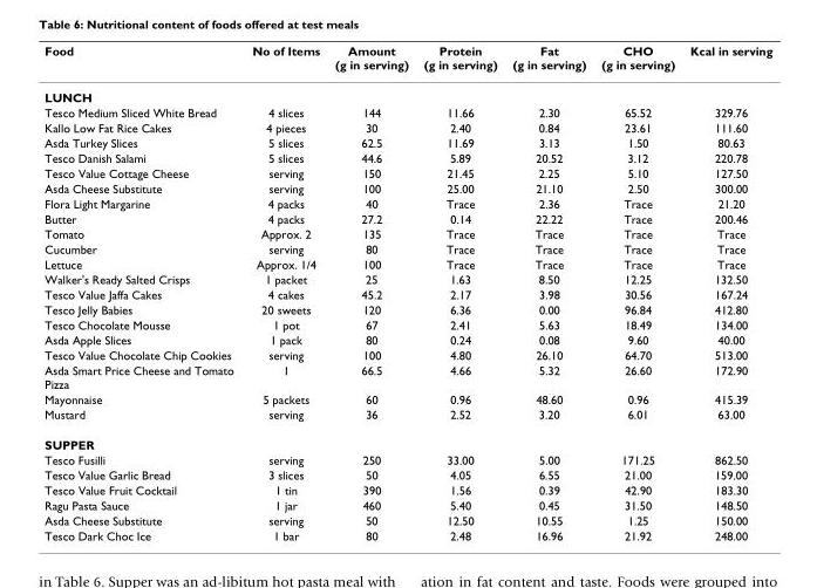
<table><thead><tr><td>Food</td><td>No of Items</td><td>Amount (g in serving)</td><td>Protein (g in serving)</td><td>Fat (g in serving)</td><td>CHO (g in serving)</td><td>Kcal in serving</td></tr></thead><tbody><tr><td colspan="7">LUNCH</td></tr><tr><td>Tesco Medium Sliced White Bread</td><td>4 slices</td><td>144</td><td>11.66</td><td>2.30</td><td>65.52</td><td>329.76</td></tr><tr><td>Kallo Low Fat Rice Cakes</td><td>4 pieces</td><td>30</td><td>2.40</td><td>0.84</td><td>23.61</td><td>111.60</td></tr><tr><td>Asda Turkey Slices</td><td>5 slices</td><td>62.5</td><td>11.69</td><td>3.13</td><td>1.50</td><td>80.63</td></tr><tr><td>Tesco Danish Salami</td><td>5 slices</td><td>44.6</td><td>5.89</td><td>20.52</td><td>3.12</td><td>220.78</td></tr><tr><td>Tesco Value Cottage Cheese</td><td>serving</td><td>150</td><td>21.45</td><td>2.25</td><td>5.10</td><td>127.50</td></tr><tr><td>Asda Cheese Substitute</td><td>serving</td><td>100</td><td>25.00</td><td>21.10</td><td>2.50</td><td>300.00</td></tr><tr><td>Flora Light Margarine</td><td>4 packs</td><td>40</td><td>Trace</td><td>2.36</td><td>Trace</td><td>21.20</td></tr><tr><td>Butter</td><td>4 packs</td><td>27.2</td><td>0.14</td><td>22.22</td><td>Trace</td><td>200.46</td></tr><tr><td>Tomato</td><td>Approx. 2</td><td>135</td><td>Trace</td><td>Trace</td><td>Trace</td><td>Trace</td></tr><tr><td>Cucumber</td><td>serving</td><td>80</td><td>Trace</td><td>Trace</td><td>Trace</td><td>Trace</td></tr><tr><td>Lettuce</td><td>Approx. 1/4</td><td>100</td><td>Trace</td><td>Trace</td><td>Trace</td><td>Trace</td></tr><tr><td>Walker&#x27;s Ready Salted Crisps</td><td>1 packet</td><td>25</td><td>1.63</td><td>8.50</td><td>12.25</td><td>132.50</td></tr><tr><td>Tesco Value Jaffa Cakes</td><td>4 cakes</td><td>45.2</td><td>2.17</td><td>3.98</td><td>30.56</td><td>167.24</td></tr><tr><td>Tesco Jelly Babies</td><td>20 sweets</td><td>120</td><td>6.36</td><td>0.00</td><td>96.84</td><td>412.80</td></tr><tr><td>Tesco Chocolate Mousse</td><td>1 pot</td><td>67</td><td>2.41</td><td>5.63</td><td>18.49</td><td>134.00</td></tr><tr><td>Asda Apple Slices</td><td>1 pack</td><td>80</td><td>0.24</td><td>0.08</td><td>9.60</td><td>40.00</td></tr><tr><td>Tesco Value Chocolate Chip Cookies</td><td>serving</td><td>100</td><td>4.80</td><td>26.10</td><td>64.70</td><td>513.00</td></tr><tr><td>Asda Smart Price Cheese and Tomato Pizza</td><td>1</td><td>66.5</td><td>4.66</td><td>5.32</td><td>26.60</td><td>172.90</td></tr><tr><td>Mayonnaise</td><td>5 packets</td><td>60</td><td>0.96</td><td>48.60</td><td>0.96</td><td>415.39</td></tr><tr><td>Mustard</td><td>serving</td><td>36</td><td>2.52</td><td>3.20</td><td>6.01</td><td>63.00</td></tr><tr><td colspan="7">SUPPER</td></tr><tr><td>Tesco Fusilli</td><td>serving</td><td>250</td><td>33.00</td><td>5.00</td><td>171.25</td><td>862.50</td></tr><tr><td>Tesco Value Garlic Bread</td><td>3 slices</td><td>50</td><td>4.05</td><td>6.55</td><td>21.00</td><td>159.00</td></tr><tr><td>Tesco Value Fruit Cocktail</td><td>1 tin</td><td>390</td><td>1.56</td><td>0.39</td><td>42.90</td><td>183.30</td></tr><tr><td>Ragu Pasta Sauce</td><td>1 jar</td><td>460</td><td>5.40</td><td>0.45</td><td>31.50</td><td>148.50</td></tr><tr><td>Asda Cheese Substitute</td><td>serving</td><td>50</td><td>12.50</td><td>10.55</td><td>1.25</td><td>150.00</td></tr><tr><td>Tesco Dark Choc Ice</td><td>1 bar</td><td>80</td><td>2.48</td><td>16.96</td><td>21.92</td><td>248.00</td></tr></tbody></table>